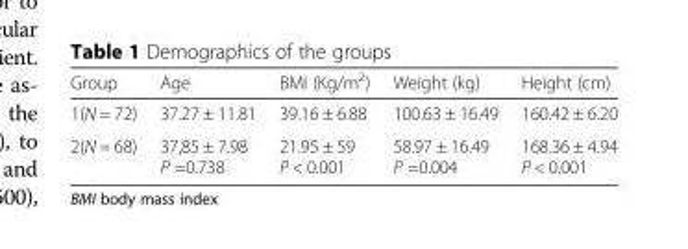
<table><thead><tr><td>Group</td><td>Age</td><td>BMI (Kg/m<sup>2</sup>)</td><td>Weight (kg)</td><td>Height (cm)</td></tr></thead><tbody><tr><td>1(N = 72)</td><td>37.27 ± 11.81</td><td>39.16 ± 6.88</td><td>100.63 ± 16.49</td><td>160.42 ± 6.20</td></tr><tr><td>2(N = 68)</td><td>37,85 ± 7.98 P =0.738</td><td>21.95 ± 59 P &lt; 0.001</td><td>58.97 ± 16.49 P =0.004</td><td>168.36 ± 4.94 P &lt; 0.001</td></tr></tbody></table>